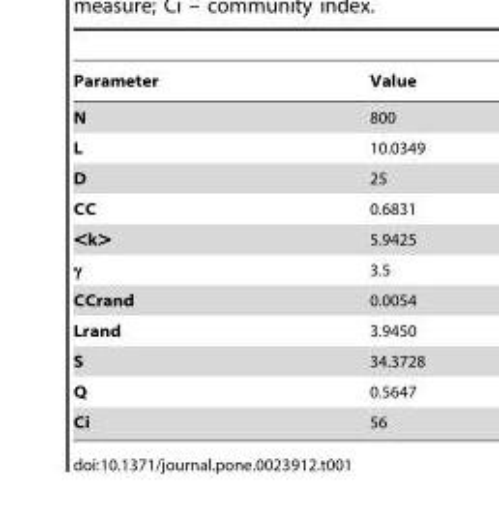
<table><thead><tr><td>Parameter</td><td>Value</td></tr></thead><tbody><tr><td>N</td><td>800</td></tr><tr><td>L</td><td>10.0349</td></tr><tr><td>D</td><td>25</td></tr><tr><td>CC</td><td>0.6831</td></tr><tr><td>&lt;k&gt;</td><td>5.9425</td></tr><tr><td>γ</td><td>3.5</td></tr><tr><td>CCrand</td><td>0.0054</td></tr><tr><td>Lrand</td><td>3.9450</td></tr><tr><td>S</td><td>34.3728</td></tr><tr><td>Q</td><td>0.5647</td></tr><tr><td>Ci</td><td>56</td></tr></tbody></table>